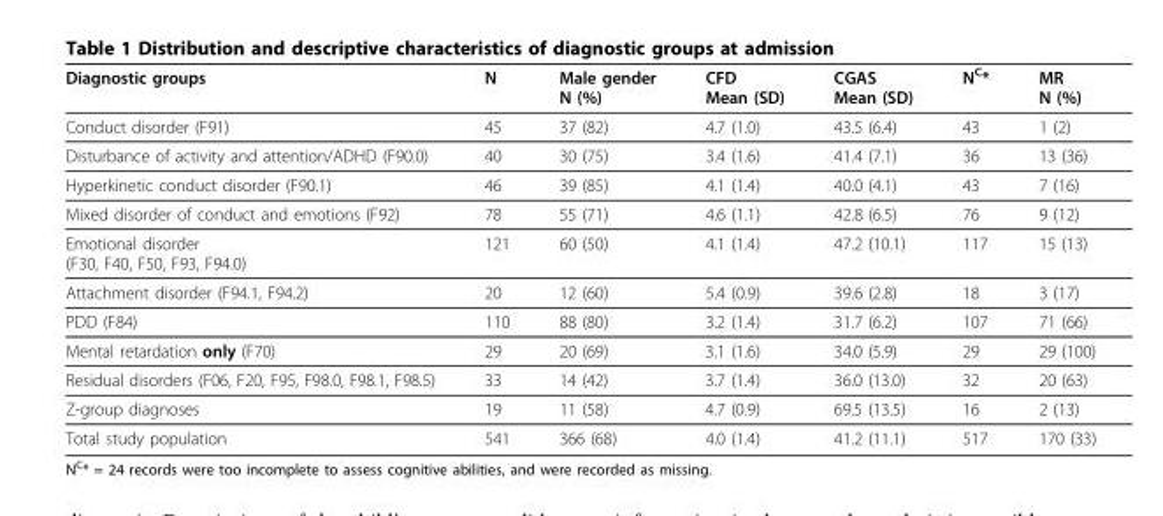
<table><thead><tr><td>Diagnostic groups</td><td>N</td><td>Male gender N (%)</td><td>CFD Mean (SD)</td><td>CGAS Mean (SD)</td><td>N<sup>C</sup>*</td><td>MR N (%)</td></tr></thead><tbody><tr><td>Conduct disorder (F91)</td><td>45</td><td>37 (82)</td><td>4.7 (1.0)</td><td>43.5 (6.4)</td><td>43</td><td>1 (2)</td></tr><tr><td>Disturbance of activity and attention/ADHD (F90.0)</td><td>40</td><td>30 (75)</td><td>3.4 (1.6)</td><td>41.4 (7.1)</td><td>36</td><td>13 (36)</td></tr><tr><td>Hyperkinetic conduct disorder (F90.1)</td><td>46</td><td>39 (85)</td><td>4.1 (1.4)</td><td>40.0 (4.1)</td><td>43</td><td>7 (16)</td></tr><tr><td>Mixed disorder of conduct and emotions (F92)</td><td>78</td><td>55 (71)</td><td>4.6 (1.1)</td><td>42.8 (6.5)</td><td>76</td><td>9 (12)</td></tr><tr><td>Emotional disorder (F30, F40, F50, F93, F94.0)</td><td>121</td><td>60 (50)</td><td>4.1 (1.4)</td><td>47.2 (10.1)</td><td>117</td><td>15 (13)</td></tr><tr><td>Attachment disorder (F94.1, F94.2)</td><td>20</td><td>12 (60)</td><td>5.4 (0.9)</td><td>39.6 (2.8)</td><td>18</td><td>3 (17)</td></tr><tr><td>PDD (F84)</td><td>110</td><td>88 (80)</td><td>3.2 (1.4)</td><td>31.7 (6.2)</td><td>107</td><td>71 (66)</td></tr><tr><td>Mental retardation only (F70)</td><td>29</td><td>20 (69)</td><td>3.1 (1.6)</td><td>34.0 (5.9)</td><td>29</td><td>29 (100)</td></tr><tr><td>Residual disorders (F06, F20, F95, F98.0, F98.1, F98.5)</td><td>33</td><td>14 (42)</td><td>3.7 (1.4)</td><td>36.0 (13.0)</td><td>32</td><td>20 (63)</td></tr><tr><td>Z-group diagnoses</td><td>19</td><td>11 (58)</td><td>4.7 (0.9)</td><td>69.5 (13.5)</td><td>16</td><td>2 (13)</td></tr><tr><td>Total study population</td><td>541</td><td>366 (68)</td><td>4.0 (1.4)</td><td>41.2 (11.1)</td><td>517</td><td>170 (33)</td></tr></tbody></table>